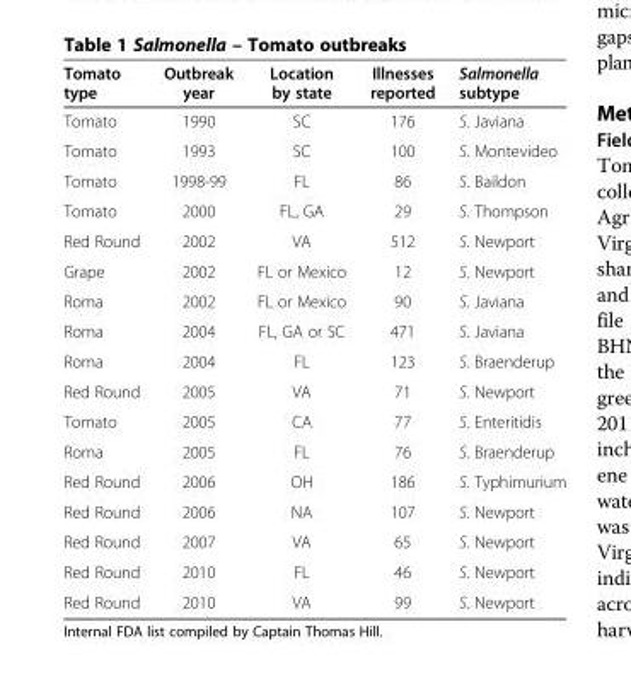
<table><thead><tr><td>Tomato type</td><td>Outbreak year</td><td>Location by state</td><td>Illnesses reported</td><td>Salmonella subtype</td></tr></thead><tbody><tr><td>Tomato</td><td>1990</td><td>SC</td><td>176</td><td>S. Javiana</td></tr><tr><td>Tomato</td><td>1993</td><td>SC</td><td>100</td><td>S. Montevideo</td></tr><tr><td>Tomato</td><td>1998-99</td><td>FL</td><td>86</td><td>S. Baildon</td></tr><tr><td>Tomato</td><td>2000</td><td>FL, GA</td><td>29</td><td>S. Thompson</td></tr><tr><td>Red Round</td><td>2002</td><td>VA</td><td>512</td><td>S. Newport</td></tr><tr><td>Grape</td><td>2002</td><td>FL or Mexico</td><td>12</td><td>S. Newport</td></tr><tr><td>Roma</td><td>2002</td><td>FL or Mexico</td><td>90</td><td>S. Javiana</td></tr><tr><td>Roma</td><td>2004</td><td>FL, GA or SC</td><td>471</td><td>S. Javiana</td></tr><tr><td>Roma</td><td>2004</td><td>FL</td><td>123</td><td>S. Braenderup</td></tr><tr><td>Red Round</td><td>2005</td><td>VA</td><td>71</td><td>S. Newport</td></tr><tr><td>Tomato</td><td>2005</td><td>CA</td><td>77</td><td>S. Enteritidis</td></tr><tr><td>Roma</td><td>2005</td><td>FL</td><td>76</td><td>S. Braenderup</td></tr><tr><td>Red Round</td><td>2006</td><td>OH</td><td>186</td><td>S. Typhimurium</td></tr><tr><td>Red Round</td><td>2006</td><td>NA</td><td>107</td><td>S. Newport</td></tr><tr><td>Red Round</td><td>2007</td><td>VA</td><td>65</td><td>S. Newport</td></tr><tr><td>Red Round</td><td>2010</td><td>FL</td><td>46</td><td>S. Newport</td></tr><tr><td>Red Round</td><td>2010</td><td>VA</td><td>99</td><td>S. Newport</td></tr></tbody></table>